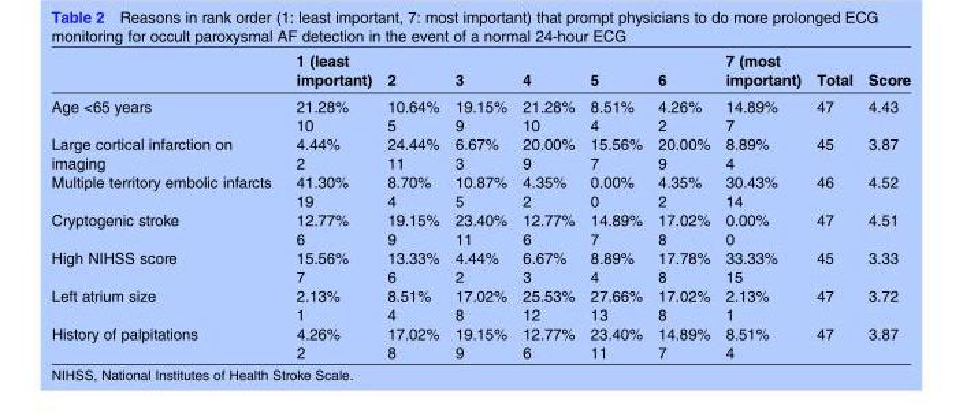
<table><thead><tr><td></td><td>1 (least important)</td><td>2</td><td>3</td><td>4</td><td>5</td><td>6</td><td>7 (most important)</td><td>Total</td><td>Score</td></tr></thead><tbody><tr><td>Age &lt;65 years</td><td>21.28% 10</td><td>10.64% 5</td><td>19.15% 9</td><td>21.28% 10</td><td>8.51% 4</td><td>4.26% 2</td><td>14.89% 7</td><td>47</td><td>4.43</td></tr><tr><td>Large cortical infarction on imaging</td><td>4.44% 2</td><td>24.44% 11</td><td>6.67% 3</td><td>20.00% 9</td><td>15.56% 7</td><td>20.00% 9</td><td>8.89% 4</td><td>45</td><td>3.87</td></tr><tr><td>Multiple territory embolic infarcts</td><td>41.30% 19</td><td>8.70% 4</td><td>10.87% 5</td><td>4.35% 2</td><td>0.00% 0</td><td>4.35% 2</td><td>30.43% 14</td><td>46</td><td>4.52</td></tr><tr><td>Cryptogenic stroke</td><td>12.77% 6</td><td>19.15% 9</td><td>23.40% 11</td><td>12.77% 6</td><td>14.89% 7</td><td>17.02% 8</td><td>0.00% 0</td><td>47</td><td>4.51</td></tr><tr><td>High NIHSS score</td><td>15.56% 7</td><td>13.33% 6</td><td>4.44% 2</td><td>6.67% 3</td><td>8.89% 4</td><td>17.78% 8</td><td>33.33% 15</td><td>45</td><td>3.33</td></tr><tr><td>Left atrium size</td><td>2.13% 1</td><td>8.51% 4</td><td>17.02% 8</td><td>25.53% 12</td><td>27.66% 13</td><td>17.02% 8</td><td>2.13% 1</td><td>47</td><td>3.72</td></tr><tr><td>History of palpitations</td><td>4.26% 2</td><td>17.02% 8</td><td>19.15% 9</td><td>12.77% 6</td><td>23.40% 11</td><td>14.89% 7</td><td>8.51% 4</td><td>47</td><td>3.87</td></tr></tbody></table>